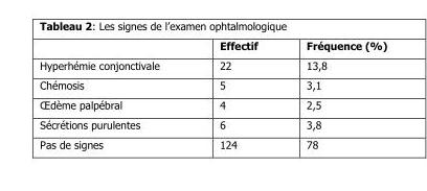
<table><thead><tr><td></td><td>Effectif</td><td>Fréquence (%)</td></tr></thead><tbody><tr><td>Hyperhémie conjonctivale</td><td>22</td><td>13,8</td></tr><tr><td>Chémosis</td><td>5</td><td>3,1</td></tr><tr><td>Œdème palpébral</td><td>4</td><td>2,5</td></tr><tr><td>Sécrétions purulentes</td><td>6</td><td>3,8</td></tr><tr><td>Pas de signes</td><td>124</td><td>78</td></tr></tbody></table>